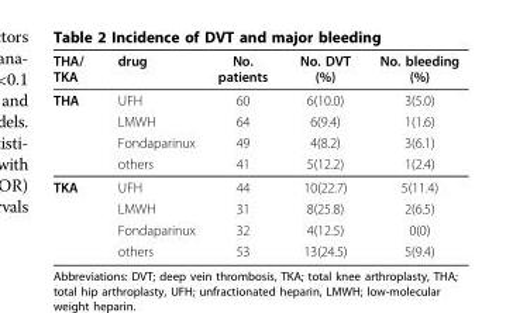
<table><thead><tr><td>THA/ TKA</td><td>drug</td><td>No. patients</td><td>No. DVT (%)</td><td>No. bleeding (%)</td></tr></thead><tbody><tr><td rowspan="4">THA</td><td>UFH</td><td>60</td><td>6(10.0)</td><td>3(5.0)</td></tr><tr><td>LMWH</td><td>64</td><td>6(9.4)</td><td>1(1.6)</td></tr><tr><td>Fondaparinux</td><td>49</td><td>4(8.2)</td><td>3(6.1)</td></tr><tr><td>others</td><td>41</td><td>5(12.2)</td><td>1(2.4)</td></tr><tr><td rowspan="4">TKA</td><td>UFH</td><td>44</td><td>10(22.7)</td><td>5(11.4)</td></tr><tr><td>LMWH</td><td>31</td><td>8(25.8)</td><td>2(6.5)</td></tr><tr><td>Fondaparinux</td><td>32</td><td>4(12.5)</td><td>0(0)</td></tr><tr><td>others</td><td>53</td><td>13(24.5)</td><td>5(9.4)</td></tr></tbody></table>